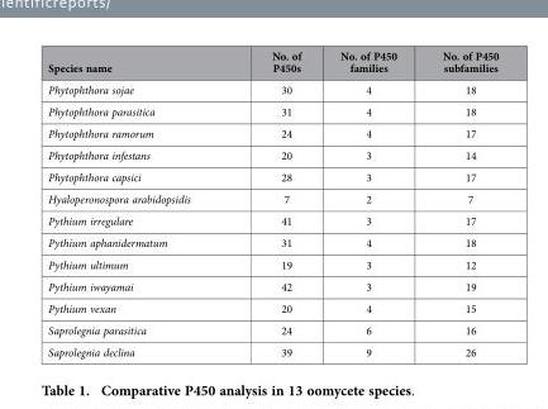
<table><thead><tr><td>Species name</td><td>No. of P450s</td><td>No. of P450 families</td><td>No. of P450 subfamilies</td></tr></thead><tbody><tr><td>Phytophthora sojae</td><td>30</td><td>4</td><td>18</td></tr><tr><td>Phytophthora parasitica</td><td>31</td><td>4</td><td>18</td></tr><tr><td>Phytophthora ramorum</td><td>24</td><td>4</td><td>17</td></tr><tr><td>Phytophthora infestans</td><td>20</td><td>3</td><td>14</td></tr><tr><td>Phytophthora capsici</td><td>28</td><td>3</td><td>17</td></tr><tr><td>Hyaloperonospora arabidopsidis</td><td>7</td><td>2</td><td>7</td></tr><tr><td>Pythium irregulare</td><td>41</td><td>3</td><td>17</td></tr><tr><td>Pythium aphanidermatum</td><td>31</td><td>4</td><td>18</td></tr><tr><td>Pythium ultimum</td><td>19</td><td>3</td><td>12</td></tr><tr><td>Pythium iwayamai</td><td>42</td><td>3</td><td>19</td></tr><tr><td>Pythium vexan</td><td>20</td><td>4</td><td>15</td></tr><tr><td>Saprolegnia parasitica</td><td>24</td><td>6</td><td>16</td></tr><tr><td>Saprolegnia declina</td><td>39</td><td>9</td><td>26</td></tr></tbody></table>